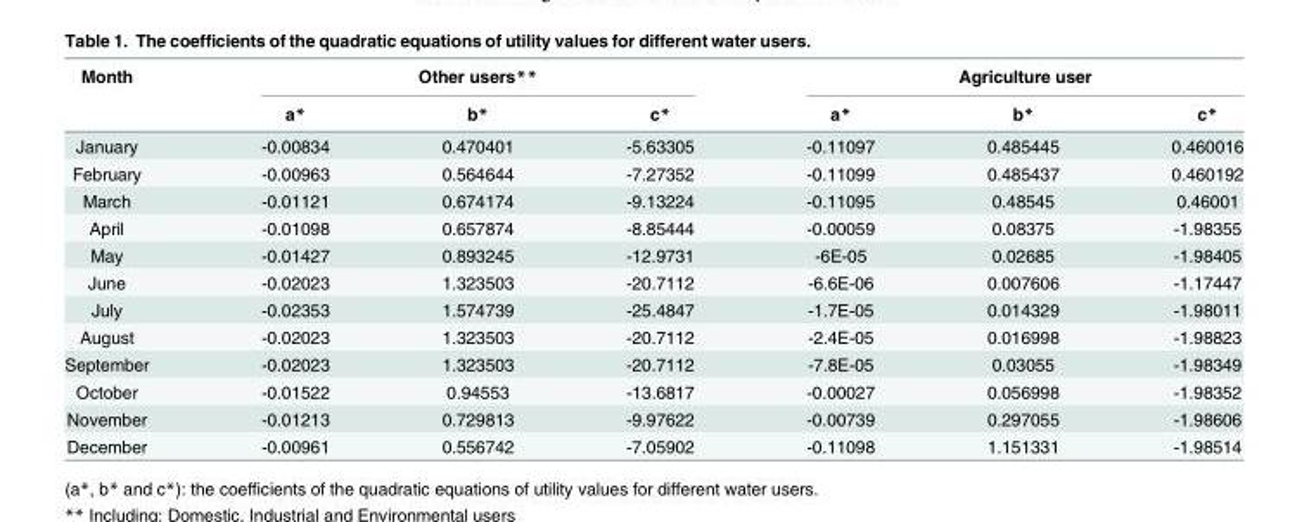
<table><thead><tr><td rowspan="2">Month</td><td colspan="3">Other users**</td><td colspan="3">Agriculture user</td></tr><tr><td>a*</td><td>b*</td><td>c*</td><td>a*</td><td>b*</td><td>c*</td></tr></thead><tbody><tr><td>January</td><td>-0.00834</td><td>0.470401</td><td>-5.63305</td><td>-0.11097</td><td>0.485445</td><td>0.460016</td></tr><tr><td>February</td><td>-0.00963</td><td>0.564644</td><td>-7.27352</td><td>-0.11099</td><td>0.485437</td><td>0.460192</td></tr><tr><td>March</td><td>-0.01121</td><td>0.674174</td><td>-9.13224</td><td>-0.11095</td><td>0.48545</td><td>0.46001</td></tr><tr><td>April</td><td>-0.01098</td><td>0.657874</td><td>-8.85444</td><td>-0.00059</td><td>0.08375</td><td>-1.98355</td></tr><tr><td>May</td><td>-0.01427</td><td>0.893245</td><td>-12.9731</td><td>-6E-05</td><td>0.02685</td><td>-1.98405</td></tr><tr><td>June</td><td>-0.02023</td><td>1.323503</td><td>-20.7112</td><td>-6.6E-06</td><td>0.007606</td><td>-1.17447</td></tr><tr><td>July</td><td>-0.02353</td><td>1.574739</td><td>-25.4847</td><td>-1.7E-05</td><td>0.014329</td><td>-1.98011</td></tr><tr><td>August</td><td>-0.02023</td><td>1.323503</td><td>-20.7112</td><td>-2.4E-05</td><td>0.016998</td><td>-1.98823</td></tr><tr><td>September</td><td>-0.02023</td><td>1.323503</td><td>-20.7112</td><td>-7.8E-05</td><td>0.03055</td><td>-1.98349</td></tr><tr><td>October</td><td>-0.01522</td><td>0.94553</td><td>-13.6817</td><td>-0.00027</td><td>0.056998</td><td>-1.98352</td></tr><tr><td>November</td><td>-0.01213</td><td>0.729813</td><td>-9.97622</td><td>-0.00739</td><td>0.297055</td><td>-1.98606</td></tr><tr><td>December</td><td>-0.00961</td><td>0.556742</td><td>-7.05902</td><td>-0.11098</td><td>1.151331</td><td>-1.98514</td></tr></tbody></table>